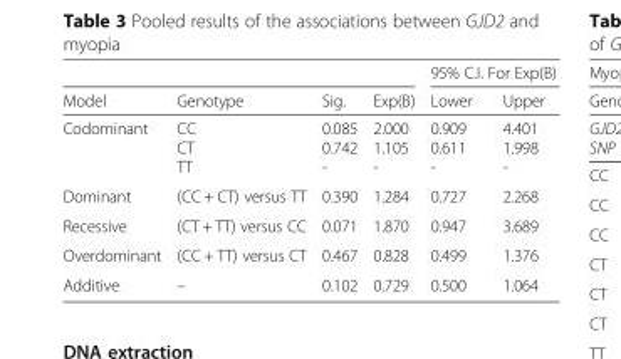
<table><thead><tr><td rowspan="2">Model</td><td rowspan="2">Genotype</td><td rowspan="2">Sig.</td><td rowspan="2">Exp(B)</td><td colspan="2">95% C.I. For Exp(B)</td></tr><tr><td>Lower</td><td>Upper</td></tr></thead><tbody><tr><td>Codominant</td><td>CC CT TT</td><td>0.085 0.742 -</td><td>2.000 1.105 -</td><td>0.909 0.611 -</td><td>4.401 1.998 -</td></tr><tr><td>Dominant</td><td>(CC + CT) versus TT</td><td>0.390</td><td>1.284</td><td>0.727</td><td>2.268</td></tr><tr><td>Recessive</td><td>(CT + TT) versus CC</td><td>0.071</td><td>1.870</td><td>0.947</td><td>3.689</td></tr><tr><td>Overdominant</td><td>(CC + TT) versus CT</td><td>0.467</td><td>0.828</td><td>0.499</td><td>1.376</td></tr><tr><td>Additive</td><td>–</td><td>0.102</td><td>0.729</td><td>0.500</td><td>1.064</td></tr></tbody></table>